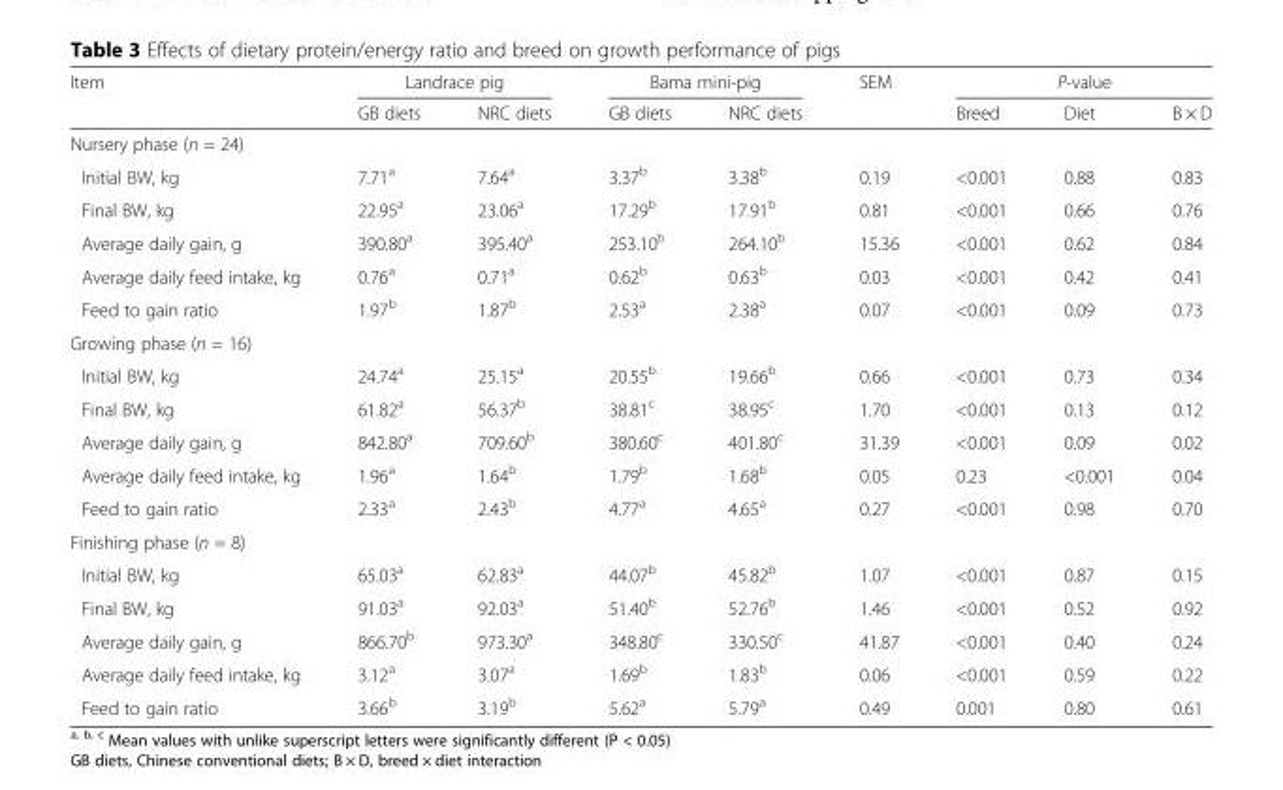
<table><thead><tr><td rowspan="2">Item</td><td colspan="2">Landrace pig</td><td colspan="2">Bama mini-pig</td><td rowspan="2">SEM</td><td colspan="3">P-value</td></tr><tr><td>GB diets</td><td>NRC diets</td><td>GB diets</td><td>NRC diets</td><td>Breed</td><td>Diet</td><td>B × D</td></tr></thead><tbody><tr><td colspan="9">Nursery phase (n = 24)</td></tr><tr><td>Initial BW, kg</td><td>7.71<sup>a</sup></td><td>7.64<sup>a</sup></td><td>3.37<sup>b</sup></td><td>3.38<sup>b</sup></td><td>0.19</td><td>&lt;0.001</td><td>0.88</td><td>0.83</td></tr><tr><td>Final BW, kg</td><td>22.95<sup>a</sup></td><td>23.06<sup>a</sup></td><td>17.29<sup>b</sup></td><td>17.91<sup>b</sup></td><td>0.81</td><td>&lt;0.001</td><td>0.66</td><td>0.76</td></tr><tr><td>Average daily gain, g</td><td>390.80<sup>a</sup></td><td>395.40<sup>a</sup></td><td>253.10<sup>b</sup></td><td>264.10<sup>b</sup></td><td>15.36</td><td>&lt;0.001</td><td>0.62</td><td>0.84</td></tr><tr><td>Average daily feed intake, kg</td><td>0.76<sup>a</sup></td><td>0.71<sup>a</sup></td><td>0.62<sup>b</sup></td><td>0.63<sup>b</sup></td><td>0.03</td><td>&lt;0.001</td><td>0.42</td><td>0.41</td></tr><tr><td>Feed to gain ratio</td><td>1.97<sup>b</sup></td><td>1.87<sup>b</sup></td><td>2.53<sup>a</sup></td><td>2.38<sup>a</sup></td><td>0.07</td><td>&lt;0.001</td><td>0.09</td><td>0.73</td></tr><tr><td colspan="9">Growing phase (n = 16)</td></tr><tr><td>Initial BW, kg</td><td>24.74<sup>a</sup></td><td>25.15<sup>a</sup></td><td>20.55<sup>b</sup></td><td>19.66<sup>b</sup></td><td>0.66</td><td>&lt;0.001</td><td>0.73</td><td>0.34</td></tr><tr><td>Final BW, kg</td><td>61.82<sup>a</sup></td><td>56.37<sup>b</sup></td><td>38.81<sup>c</sup></td><td>38.95<sup>c</sup></td><td>1.70</td><td>&lt;0.001</td><td>0.13</td><td>0.12</td></tr><tr><td>Average daily gain, g</td><td>842.80<sup>a</sup></td><td>709.60<sup>b</sup></td><td>380.60<sup>c</sup></td><td>401.80<sup>c</sup></td><td>31.39</td><td>&lt;0.001</td><td>0.09</td><td>0.02</td></tr><tr><td>Average daily feed intake, kg</td><td>1.96<sup>a</sup></td><td>1.64<sup>b</sup></td><td>1.79<sup>b</sup></td><td>1.68<sup>b</sup></td><td>0.05</td><td>0.23</td><td>&lt;0.001</td><td>0.04</td></tr><tr><td>Feed to gain ratio</td><td>2.33<sup>a</sup></td><td>2.43<sup>b</sup></td><td>4.77<sup>a</sup></td><td>4.65<sup>a</sup></td><td>0.27</td><td>&lt;0.001</td><td>0.98</td><td>0.70</td></tr><tr><td colspan="9">Finishing phase (n = 8)</td></tr><tr><td>Initial BW, kg</td><td>65.03<sup>a</sup></td><td>62.83<sup>a</sup></td><td>44.07<sup>b</sup></td><td>45.82<sup>b</sup></td><td>1.07</td><td>&lt;0.001</td><td>0.87</td><td>0.15</td></tr><tr><td>Final BW, kg</td><td>91.03<sup>a</sup></td><td>92.03<sup>a</sup></td><td>51.40<sup>b</sup></td><td>52.76<sup>b</sup></td><td>1.46</td><td>&lt;0.001</td><td>0.52</td><td>0.92</td></tr><tr><td>Average daily gain, g</td><td>866.70<sup>b</sup></td><td>973.30<sup>a</sup></td><td>348.80<sup>c</sup></td><td>330.50<sup>c</sup></td><td>41.87</td><td>&lt;0.001</td><td>0.40</td><td>0.24</td></tr><tr><td>Average daily feed intake, kg</td><td>3.12<sup>a</sup></td><td>3.07<sup>a</sup></td><td>1.69<sup>b</sup></td><td>1.83<sup>b</sup></td><td>0.06</td><td>&lt;0.001</td><td>0.59</td><td>0.22</td></tr><tr><td>Feed to gain ratio</td><td>3.66<sup>b</sup></td><td>3.19<sup>b</sup></td><td>5.62<sup>a</sup></td><td>5.79<sup>a</sup></td><td>0.49</td><td>0.001</td><td>0.80</td><td>0.61</td></tr></tbody></table>